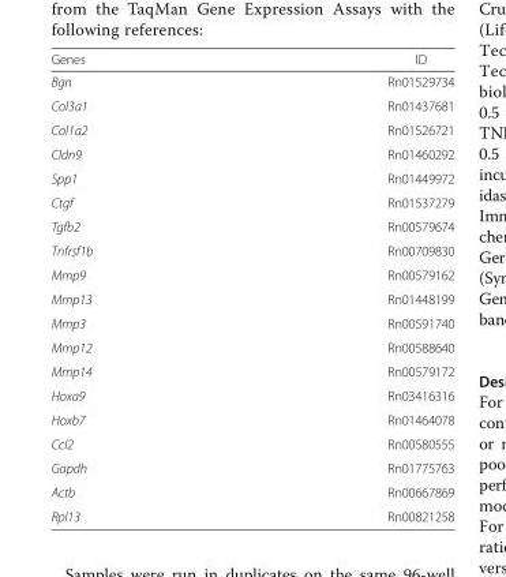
<table><thead><tr><td>Genes</td><td>ID</td></tr></thead><tbody><tr><td>Bgn</td><td>Rn01529734</td></tr><tr><td>Col3a1</td><td>Rn01437681</td></tr><tr><td>Col1a2</td><td>Rn01526721</td></tr><tr><td>Cldn9</td><td>Rn01460292</td></tr><tr><td>Spp1</td><td>Rn01449972</td></tr><tr><td>Ctgf</td><td>Rn01537279</td></tr><tr><td>Tgfb2</td><td>Rn00579674</td></tr><tr><td>Tnfrsf1b</td><td>Rn00709830</td></tr><tr><td>Mmp9</td><td>Rn00579162</td></tr><tr><td>Mmp13</td><td>Rn01448199</td></tr><tr><td>Mmp3</td><td>Rn00591740</td></tr><tr><td>Mmp12</td><td>Rn00588640</td></tr><tr><td>Mmp14</td><td>Rn00579172</td></tr><tr><td>Hoxa9</td><td>Rn03416316</td></tr><tr><td>Hoxb7</td><td>Rn01464078</td></tr><tr><td>Ccl2</td><td>Rn00580555</td></tr><tr><td>Gapdh</td><td>Rn01775763</td></tr><tr><td>Actb</td><td>Rn00667869</td></tr><tr><td>Rpl13</td><td>Rn00821258</td></tr></tbody></table>